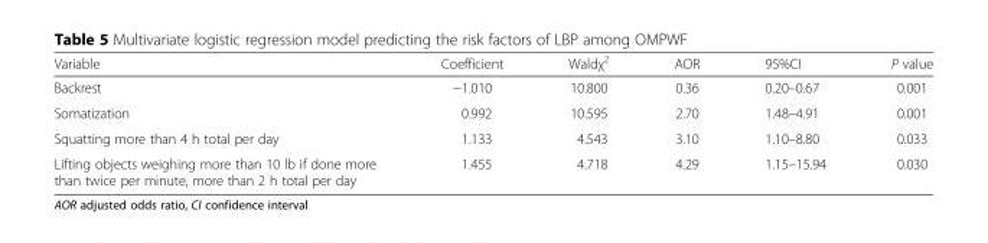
<table><thead><tr><td>Variable</td><td>Coefficient</td><td>Waldχ<sup>2</sup></td><td>AOR</td><td>95%CI</td><td>P value</td></tr></thead><tbody><tr><td>Backrest</td><td>−1.010</td><td>10.800</td><td>0.36</td><td>0.20–0.67</td><td>0.001</td></tr><tr><td>Somatization</td><td>0.992</td><td>10.595</td><td>2.70</td><td>1.48–4.91</td><td>0.001</td></tr><tr><td>Squatting more than 4 h total per day</td><td>1.133</td><td>4.543</td><td>3.10</td><td>1.10–8.80</td><td>0.033</td></tr><tr><td>Lifting objects weighing more than 10 lb if done more than twice per minute, more than 2 h total per day</td><td>1.455</td><td>4.718</td><td>4.29</td><td>1.15–15.94</td><td>0.030</td></tr></tbody></table>